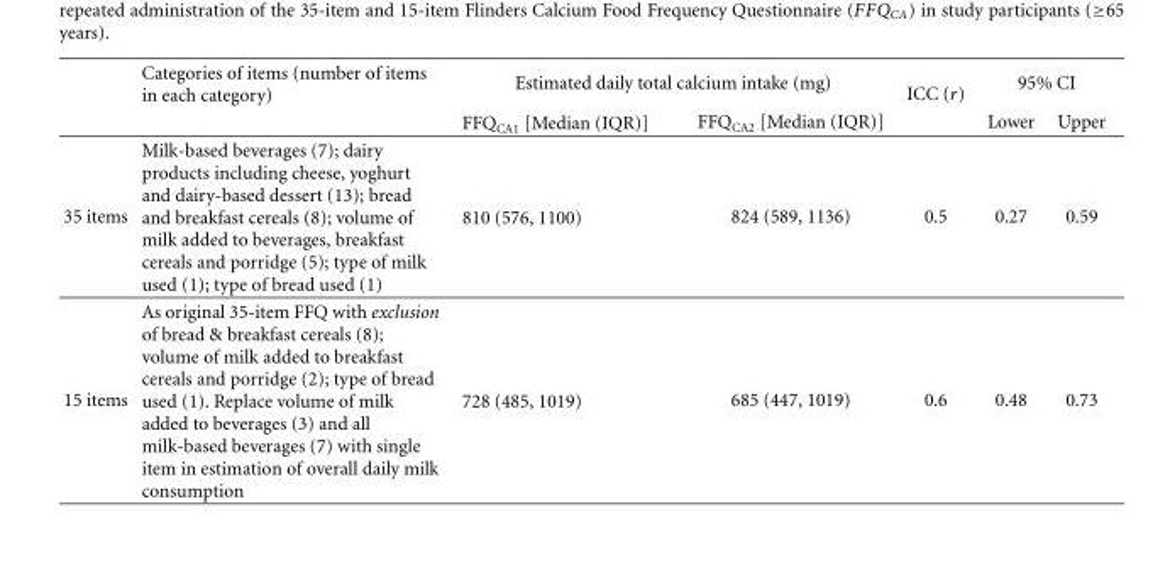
<table><thead><tr><td rowspan="2"></td><td rowspan="2">Categories of items (number of items in each category)</td><td colspan="2">Estimated daily total calcium intake (mg)</td><td rowspan="2">ICC (r)</td><td colspan="2">95% CI</td></tr><tr><td>FFQ<sub>CA1</sub> [Median (IQR)]</td><td>FFQ<sub>CA2</sub> [Median (IQR)]</td><td>Lower</td><td>Upper</td></tr></thead><tbody><tr><td>35 items</td><td>Milk-based beverages (7); dairy products including cheese, yoghurt and dairy-based dessert (13); bread and breakfast cereals (8); volume of milk added to beverages, breakfast cereals and porridge (5); type of milk used (1); type of bread used (1)</td><td>810 (576, 1100)</td><td>824 (589, 1136)</td><td>0.5</td><td>0.27</td><td>0.59</td></tr><tr><td>15 items</td><td>As original 35-item FFQ with exclusion of bread &amp; breakfast cereals (8); volume of milk added to breakfast cereals and porridge (2); type of bread used (1). Replace volume of milk added to beverages (3) and all milk-based beverages (7) with single item in estimation of overall daily milk consumption</td><td>728 (485, 1019)</td><td>685 (447, 1019)</td><td>0.6</td><td>0.48</td><td>0.73</td></tr></tbody></table>